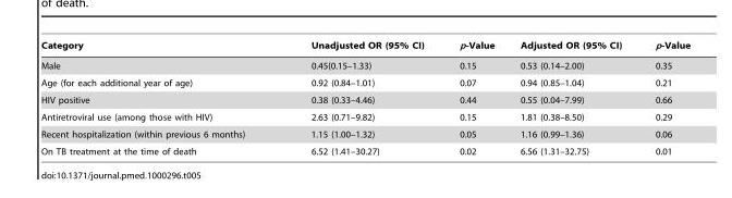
<table><thead><tr><td>Category</td><td>Unadjusted OR (95% CI)</td><td>p-Value</td><td>Adjusted OR (95% CI)</td><td>p-Value</td></tr></thead><tbody><tr><td>Male</td><td>0.45(0.15–1.33)</td><td>0.15</td><td>0.53 (0.14–2.00)</td><td>0.35</td></tr><tr><td>Age (for each additional year of age)</td><td>0.92 (0.84–1.01)</td><td>0.07</td><td>0.94 (0.85–1.04)</td><td>0.21</td></tr><tr><td>HIV positive</td><td>0.38 (0.33–4.46)</td><td>0.44</td><td>0.55 (0.04–7.99)</td><td>0.66</td></tr><tr><td>Antiretroviral use (among those with HIV)</td><td>2.63 (0.71–9.82)</td><td>0.15</td><td>1.81 (0.38–8.50)</td><td>0.29</td></tr><tr><td>Recent hospitalization (within previous 6 months)</td><td>1.15 (1.00–1.32)</td><td>0.05</td><td>1.16 (0.99–1.36)</td><td>0.06</td></tr><tr><td>On TB treatment at the time of death</td><td>6.52 (1.41–30.27)</td><td>0.02</td><td>6.56 (1.31–32.75)</td><td>0.01</td></tr></tbody></table>